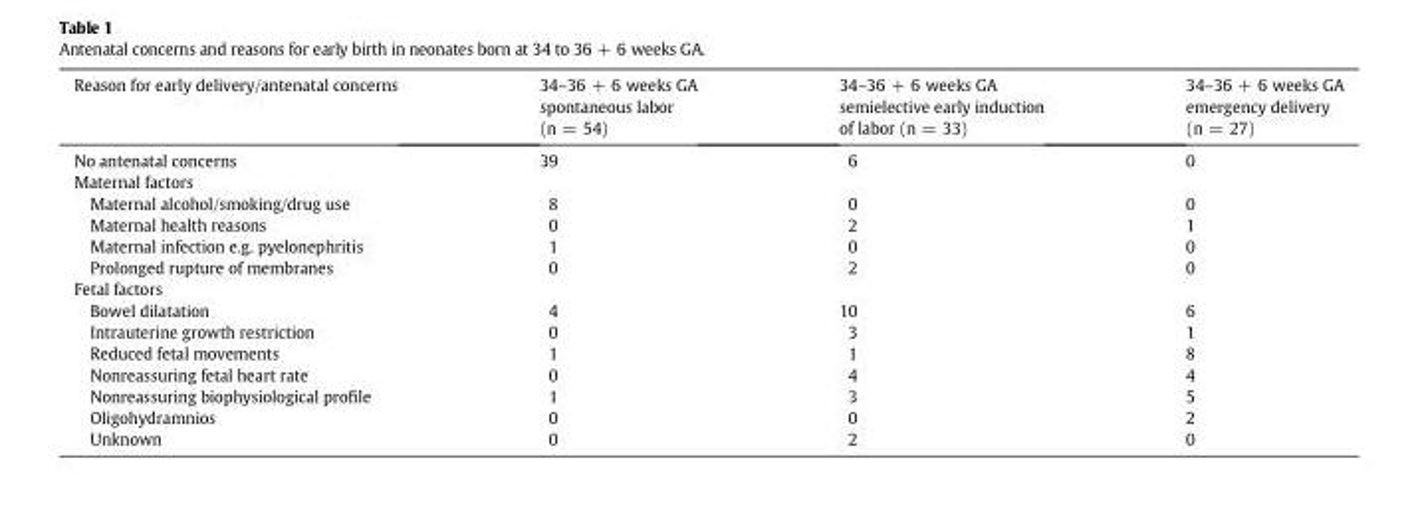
<table><thead><tr><td>Reason for early delivery/antenatal concerns</td><td>34–36 + 6 weeks GA spontaneous labor (n = 54)</td><td>34–36 + 6 weeks GA semielective early induction of labor (n = 33)</td><td>34–36 + 6 weeks GA emergency delivery (n = 27)</td></tr></thead><tbody><tr><td>No antenatal concerns</td><td>39</td><td>6</td><td>0</td></tr><tr><td colspan="4">Maternal factors</td></tr><tr><td>Maternal alcohol/smoking/drug use</td><td>8</td><td>0</td><td>0</td></tr><tr><td>Maternal health reasons</td><td>0</td><td>2</td><td>1</td></tr><tr><td>Maternal infection e.g. pyelonephritis</td><td>1</td><td>0</td><td>0</td></tr><tr><td>Prolonged rupture of membranes</td><td>0</td><td>2</td><td>0</td></tr><tr><td colspan="4">Fetal factors</td></tr><tr><td>Bowel dilatation</td><td>4</td><td>10</td><td>6</td></tr><tr><td>Intrauterine growth restriction</td><td>0</td><td>3</td><td>1</td></tr><tr><td>Reduced fetal movements</td><td>1</td><td>1</td><td>8</td></tr><tr><td>Nonreassuring fetal heart rate</td><td>0</td><td>4</td><td>4</td></tr><tr><td>Nonreassuring biophysiological profile</td><td>1</td><td>3</td><td>5</td></tr><tr><td>Oligohydramnios</td><td>0</td><td>0</td><td>2</td></tr><tr><td>Unknown</td><td>0</td><td>2</td><td>0</td></tr></tbody></table>